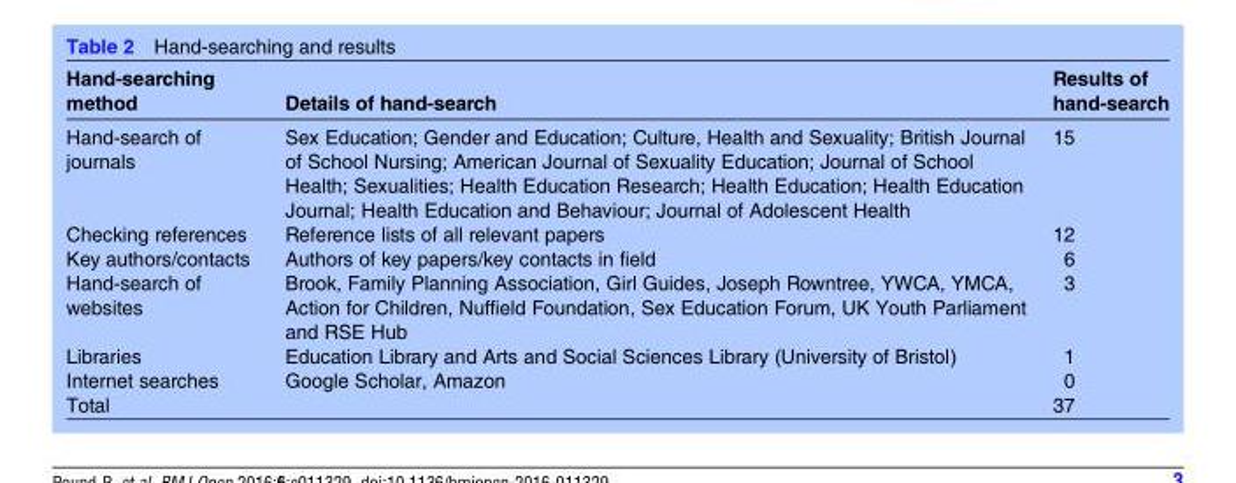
<table><thead><tr><td>Hand-searching method</td><td>Details of hand-search</td><td>Results of hand-search</td></tr></thead><tbody><tr><td>Hand-search of journals</td><td>Sex Education; Gender and Education; Culture, Health and Sexuality; British Journal of School Nursing; American Journal of Sexuality Education; Journal of School Health; Sexualities; Health Education Research; Health Education; Health Education Journal; Health Education and Behaviour; Journal of Adolescent Health</td><td>15</td></tr><tr><td>Checking references</td><td>Reference lists of all relevant papers</td><td>12</td></tr><tr><td>Key authors/contacts</td><td>Authors of key papers/key contacts in field</td><td>6</td></tr><tr><td>Hand-search of websites</td><td>Brook, Family Planning Association, Girl Guides, Joseph Rowntree, YWCA, YMCA, Action for Children, Nuffield Foundation, Sex Education Forum, UK Youth Parliament and RSE Hub</td><td>3</td></tr><tr><td>Libraries</td><td>Education Library and Arts and Social Sciences Library (University of Bristol)</td><td>1</td></tr><tr><td>Internet searches</td><td>Google Scholar, Amazon</td><td>0</td></tr><tr><td>Total</td><td></td><td>37</td></tr></tbody></table>